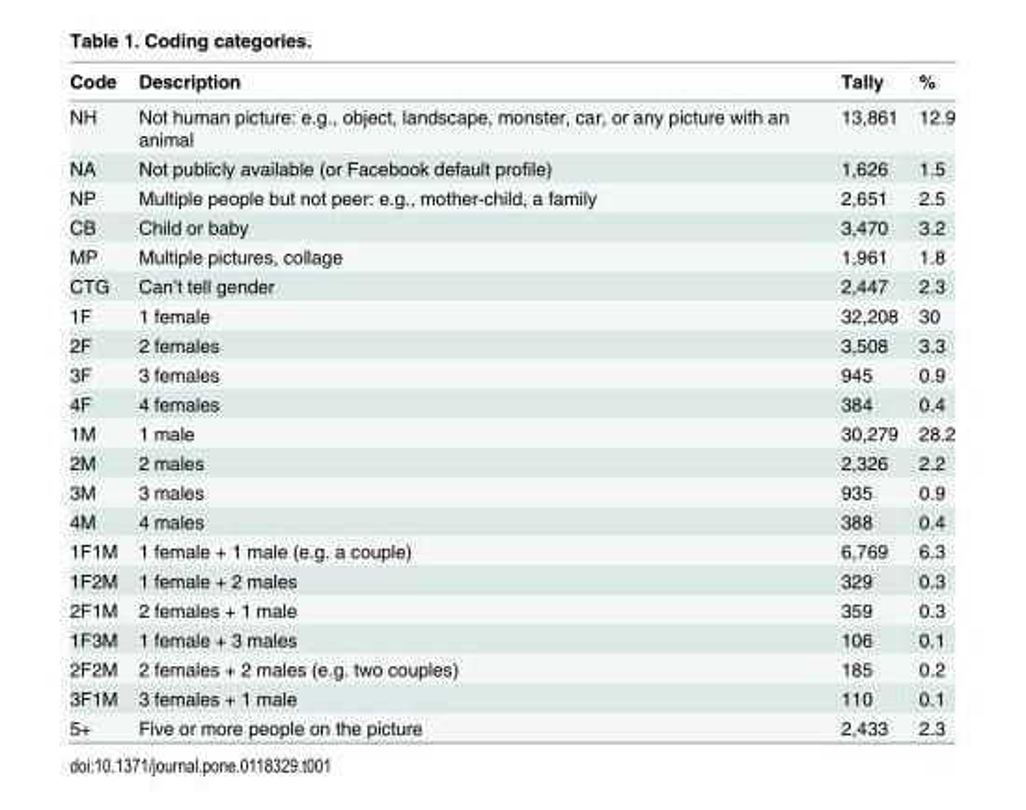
<table><thead><tr><td>Code</td><td>Description</td><td>Tally</td><td>%</td></tr></thead><tbody><tr><td>NH</td><td>Not human picture: e.g., object, landscape, monster, car, or any picture with an animal</td><td>13,861</td><td>12.9</td></tr><tr><td>NA</td><td>Not publicly available (or Facebook default profile)</td><td>1,626</td><td>1.5</td></tr><tr><td>NP</td><td>Multiple people but not peer: e.g., mother-child, a family</td><td>2,651</td><td>2.5</td></tr><tr><td>CB</td><td>Child or baby</td><td>3,470</td><td>3.2</td></tr><tr><td>MP</td><td>Multiple pictures, collage</td><td>1,961</td><td>1.8</td></tr><tr><td>CTG</td><td>Can’t tell gender</td><td>2,447</td><td>2.3</td></tr><tr><td>1F</td><td>1 female</td><td>32,208</td><td>30</td></tr><tr><td>2F</td><td>2 females</td><td>3,508</td><td>3.3</td></tr><tr><td>3F</td><td>3 females</td><td>945</td><td>0.9</td></tr><tr><td>4F</td><td>4 females</td><td>384</td><td>0.4</td></tr><tr><td>1M</td><td>1 male</td><td>30,279</td><td>28.2</td></tr><tr><td>2M</td><td>2 males</td><td>2,326</td><td>2.2</td></tr><tr><td>3M</td><td>3 males</td><td>935</td><td>0.9</td></tr><tr><td>4M</td><td>4 males</td><td>388</td><td>0.4</td></tr><tr><td>1F1M</td><td>1 female + 1 male (e.g. a couple)</td><td>6,769</td><td>6.3</td></tr><tr><td>1F2M</td><td>1 female + 2 males</td><td>329</td><td>0.3</td></tr><tr><td>2F1M</td><td>2 females + 1 male</td><td>359</td><td>0.3</td></tr><tr><td>1F3M</td><td>1 female + 3 males</td><td>106</td><td>0.1</td></tr><tr><td>2F2M</td><td>2 females + 2 males (e.g. two couples)</td><td>185</td><td>0.2</td></tr><tr><td>3F1M</td><td>3 females + 1 male</td><td>110</td><td>0.1</td></tr><tr><td>5+</td><td>Five or more people on the picture</td><td>2,433</td><td>2.3</td></tr></tbody></table>